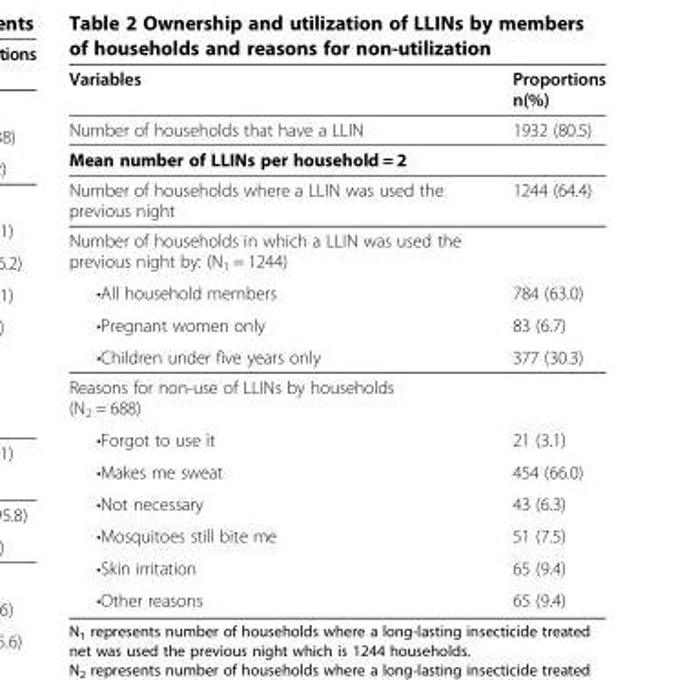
<table><thead><tr><td>Variables</td><td>Proportions n(%)</td></tr></thead><tbody><tr><td>Number of households that have a LLIN</td><td>1932 (80.5)</td></tr><tr><td colspan="2">Mean number of LLINs per household = 2</td></tr><tr><td>Number of households where a LLIN was used the previous night</td><td>1244 (64.4)</td></tr><tr><td colspan="2">Number of households in which a LLIN was used the previous night by: (N<sub>1</sub> = 1244)</td></tr><tr><td>•All household members</td><td>784 (63.0)</td></tr><tr><td>•Pregnant women only</td><td>83 (6.7)</td></tr><tr><td>•Children under five years only</td><td>377 (30.3)</td></tr><tr><td colspan="2">Reasons for non-use of LLINs by households (N<sub>2</sub> = 688)</td></tr><tr><td>•Forgot to use it</td><td>21 (3.1)</td></tr><tr><td>•Makes me sweat</td><td>454 (66.0)</td></tr><tr><td>•Not necessary</td><td>43 (6.3)</td></tr><tr><td>•Mosquitoes still bite me</td><td>51 (7.5)</td></tr><tr><td>•Skin irritation</td><td>65 (9.4)</td></tr><tr><td>•Other reasons</td><td>65 (9.4)</td></tr></tbody></table>